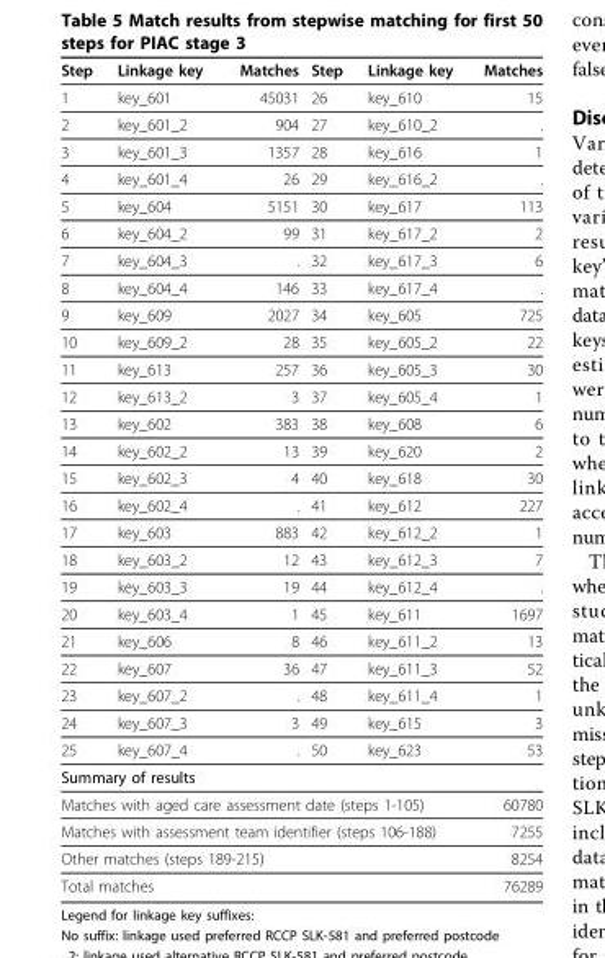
<table><thead><tr><td rowspan="26">Step 1 2 3 4 5 6 7 8 9 10 11 12 13 14 15 16 17 18 19 20 21 22 23 24 25</td><td rowspan="26">Linkage key key_601 key_601_2 key_601_3 key_601_4 key_604 key_604_2 key_604_3 key_604_4 key_609 key_609_2 key_613 key_613_2 key_602 key_602_2 key_602_3 key_602_4 key_603 key_603_2 key_603_3 key_603_4 key_606 key_607 key_607_2 key_607_3 key_607_4</td><td rowspan="26">Matches 45031 904 1357 26 5151 99 . 146 2027 28 257 3 383 13 4 . 883 12 19 1 8 36 . 3 .</td><td rowspan="26">Step 26 27 28 29 30 31 32 33 34 35 36 37 38 39 40 41 42 43 44 45 46 47 48 49 50</td><td rowspan="26">Linkage key key_610 key_610_2 key_616 key_616_2 key_617 key_617_2 key_617_3 key_617_4 key_605 key_605_2 key_605_3 key_605_4 key_608 key_620 key_618 key_612 key_612_2 key_612_3 key_612_4 key_611 key_611_2 key_611_3 key_611_4 key_615 key_623</td><td rowspan="26">Matches 15 . 1 . 113 2 6 . 725 22 30 1 6 2 30 227 1 7 . 1697 13 52 1 3 53</td></tr><tr></tr><tr></tr><tr></tr><tr></tr><tr></tr><tr></tr><tr></tr><tr></tr><tr></tr><tr></tr><tr></tr><tr></tr><tr></tr><tr></tr><tr></tr><tr></tr><tr></tr><tr></tr><tr></tr><tr></tr><tr></tr><tr></tr><tr></tr><tr></tr><tr></tr></thead><tbody><tr><td colspan="6">Summary of results</td></tr><tr><td colspan="5">Matches with aged care assessment date (steps 1-105)</td><td>60780</td></tr><tr><td colspan="5">Matches with assessment team identifier (steps 106-188)</td><td>7255</td></tr><tr><td colspan="5">Other matches (steps 189-215)</td><td>8254</td></tr><tr><td colspan="5">Total matches</td><td>76289</td></tr></tbody></table>